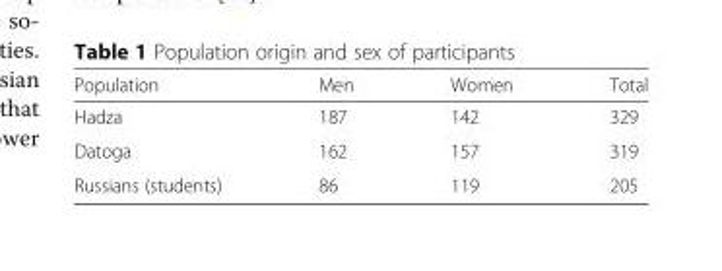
<table><thead><tr><td>Population</td><td>Men</td><td>Women</td><td>Total</td></tr></thead><tbody><tr><td>Hadza</td><td>187</td><td>142</td><td>329</td></tr><tr><td>Datoga</td><td>162</td><td>157</td><td>319</td></tr><tr><td>Russians (students)</td><td>86</td><td>119</td><td>205</td></tr></tbody></table>